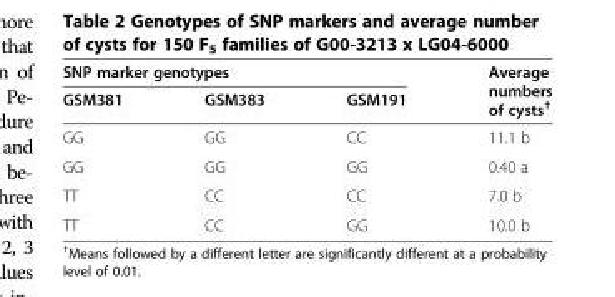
<table><thead><tr><td colspan="3">SNP marker genotypes</td><td rowspan="2">Average numbers of cysts<sup>†</sup></td></tr><tr><td>GSM381</td><td>GSM383</td><td>GSM191</td></tr></thead><tbody><tr><td>GG</td><td>GG</td><td>CC</td><td>11.1 b</td></tr><tr><td>GG</td><td>GG</td><td>GG</td><td>0.40 a</td></tr><tr><td>TT</td><td>CC</td><td>CC</td><td>7.0 b</td></tr><tr><td>TT</td><td>CC</td><td>GG</td><td>10.0 b</td></tr></tbody></table>